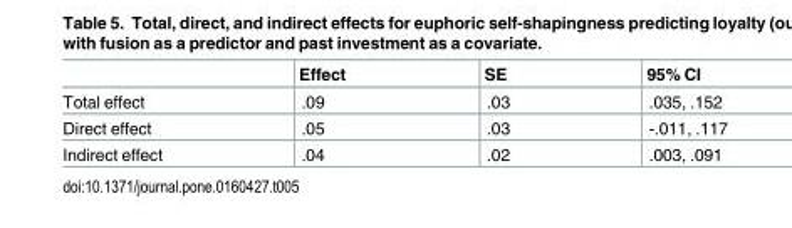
<table><thead><tr><td></td><td>Effect</td><td>SE</td><td>95% CI</td></tr></thead><tbody><tr><td>Total effect</td><td>.09</td><td>.03</td><td>.035, .152</td></tr><tr><td>Direct effect</td><td>.05</td><td>.03</td><td>-.011, .117</td></tr><tr><td>Indirect effect</td><td>.04</td><td>.02</td><td>.003, .091</td></tr></tbody></table>